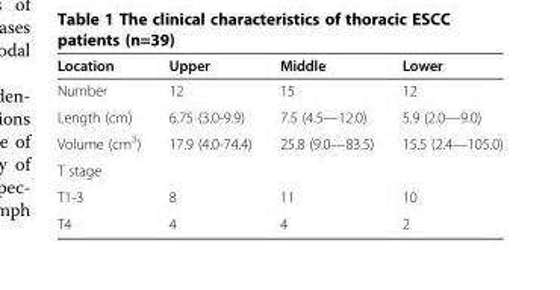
<table><thead><tr><td>Location</td><td>Upper</td><td>Middle</td><td>Lower</td></tr></thead><tbody><tr><td>Number</td><td>12</td><td>15</td><td>12</td></tr><tr><td>Length (cm)</td><td>6.75 (3.0-9.9)</td><td>7.5 (4.5—12.0)</td><td>5.9 (2.0—9.0)</td></tr><tr><td>Volume (cm<sup>3</sup>)</td><td>17.9 (4.0-74.4)</td><td>25.8 (9.0—83.5)</td><td>15.5 (2.4—105.0)</td></tr><tr><td colspan="4">T stage</td></tr><tr><td>T1-3</td><td>8</td><td>11</td><td>10</td></tr><tr><td>T4</td><td>4</td><td>4</td><td>2</td></tr></tbody></table>